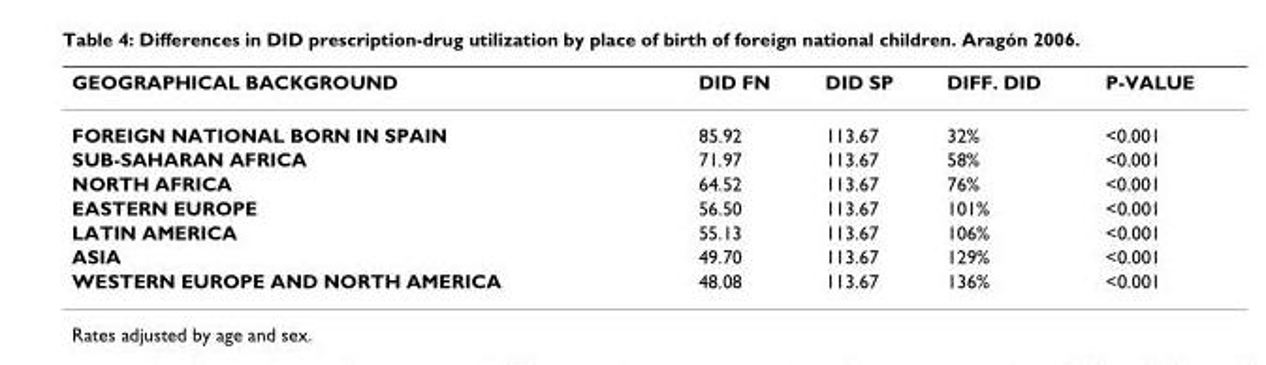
<table><thead><tr><td>GEOGRAPHICAL BACKGROUND</td><td>DID FN</td><td>DID SP</td><td>DIFF. DID</td><td>P-VALUE</td></tr></thead><tbody><tr><td>FOREIGN NATIONAL BORN IN SPAIN</td><td>85.92</td><td>113.67</td><td>32%</td><td>&lt;0.001</td></tr><tr><td>SUB-SAHARAN AFRICA</td><td>71.97</td><td>113.67</td><td>58%</td><td>&lt;0.001</td></tr><tr><td>NORTH AFRICA</td><td>64.52</td><td>113.67</td><td>76%</td><td>&lt;0.001</td></tr><tr><td>EASTERN EUROPE</td><td>56.50</td><td>113.67</td><td>101%</td><td>&lt;0.001</td></tr><tr><td>LATIN AMERICA</td><td>55.13</td><td>113.67</td><td>106%</td><td>&lt;0.001</td></tr><tr><td>ASIA</td><td>49.70</td><td>113.67</td><td>129%</td><td>&lt;0.001</td></tr><tr><td>WESTERN EUROPE AND NORTH AMERICA</td><td>48.08</td><td>113.67</td><td>136%</td><td>&lt;0.001</td></tr></tbody></table>